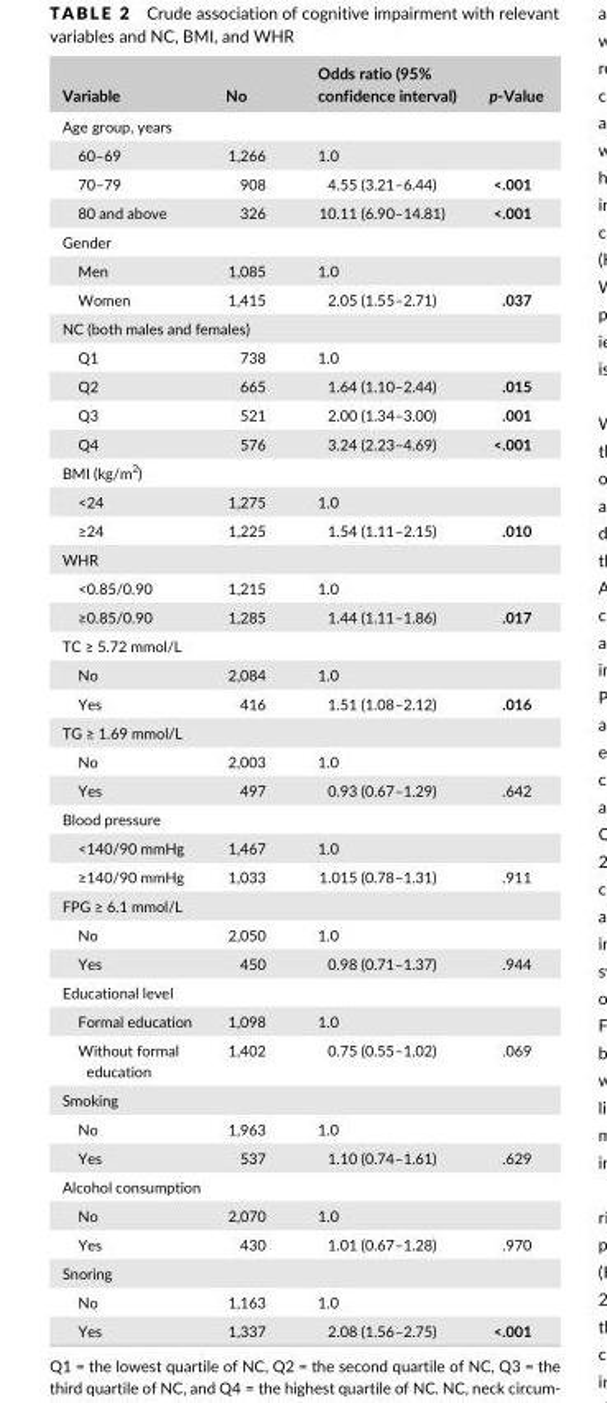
<table><thead><tr><td>Variable</td><td>No</td><td>Odds ratio (95% confidence interval)</td><td>p- Value</td></tr></thead><tbody><tr><td colspan="4">Age group, years</td></tr><tr><td>60–69</td><td>1,266</td><td>1.0</td><td></td></tr><tr><td>70–79</td><td>908</td><td>4.55 (3.21–6.44)</td><td>&lt;.001</td></tr><tr><td>80 and above</td><td>326</td><td>10.11 (6.90–14.81)</td><td>&lt;.001</td></tr><tr><td colspan="4">Gender</td></tr><tr><td>Men</td><td>1,085</td><td>1.0</td><td></td></tr><tr><td>Women</td><td>1,415</td><td>2.05 (1.55–2.71)</td><td>.037</td></tr><tr><td colspan="4">NC (both males and females)</td></tr><tr><td>Q1</td><td>738</td><td>1.0</td><td></td></tr><tr><td>Q2</td><td>665</td><td>1.64 (1.10–2.44)</td><td>.015</td></tr><tr><td>Q3</td><td>521</td><td>2.00 (1.34–3.00)</td><td>.001</td></tr><tr><td>Q4</td><td>576</td><td>3.24 (2.23–4.69)</td><td>&lt;.001</td></tr><tr><td colspan="4">BMI (kg/m<sup>2</sup>)</td></tr><tr><td>&lt;24</td><td>1,275</td><td>1.0</td><td></td></tr><tr><td>≥24</td><td>1,225</td><td>1.54 (1.11–2.15)</td><td>.010</td></tr><tr><td colspan="4">WHR</td></tr><tr><td>&lt;0.85/0.90</td><td>1,215</td><td>1.0</td><td></td></tr><tr><td>≥0.85/0.90</td><td>1,285</td><td>1.44 (1.11–1.86)</td><td>.017</td></tr><tr><td colspan="4">TC ≥ 5.72 mmol/L</td></tr><tr><td>No</td><td>2,084</td><td>1.0</td><td></td></tr><tr><td>Yes</td><td>416</td><td>1.51 (1.08–2.12)</td><td>.016</td></tr><tr><td colspan="4">TG ≥ 1.69 mmol/L</td></tr><tr><td>No</td><td>2,003</td><td>1.0</td><td></td></tr><tr><td>Yes</td><td>497</td><td>0.93 (0.67–1.29)</td><td>.642</td></tr><tr><td colspan="4">Blood pressure</td></tr><tr><td>&lt;140/90 mmHg</td><td>1,467</td><td>1.0</td><td></td></tr><tr><td>≥140/90 mmHg</td><td>1,033</td><td>1.015 (0.78–1.31)</td><td>.911</td></tr><tr><td colspan="4">FPG ≥ 6.1 mmol/L</td></tr><tr><td>No</td><td>2,050</td><td>1.0</td><td></td></tr><tr><td>Yes</td><td>450</td><td>0.98 (0.71–1.37)</td><td>.944</td></tr><tr><td colspan="4">Educational level</td></tr><tr><td>Formal education</td><td>1,098</td><td>1.0</td><td></td></tr><tr><td>Without formal education</td><td>1,402</td><td>0.75 (0.55–1.02)</td><td>.069</td></tr><tr><td colspan="4">Smoking</td></tr><tr><td>No</td><td>1,963</td><td>1.0</td><td></td></tr><tr><td>Yes</td><td>537</td><td>1.10 (0.74–1.61)</td><td>.629</td></tr><tr><td colspan="4">Alcohol consumption</td></tr><tr><td>No</td><td>2,070</td><td>1.0</td><td></td></tr><tr><td>Yes</td><td>430</td><td>1.01 (0.67–1.28)</td><td>.970</td></tr><tr><td colspan="4">Snoring</td></tr><tr><td>No</td><td>1,163</td><td>1.0</td><td></td></tr><tr><td>Yes</td><td>1,337</td><td>2.08 (1.56–2.75)</td><td>&lt;.001</td></tr></tbody></table>